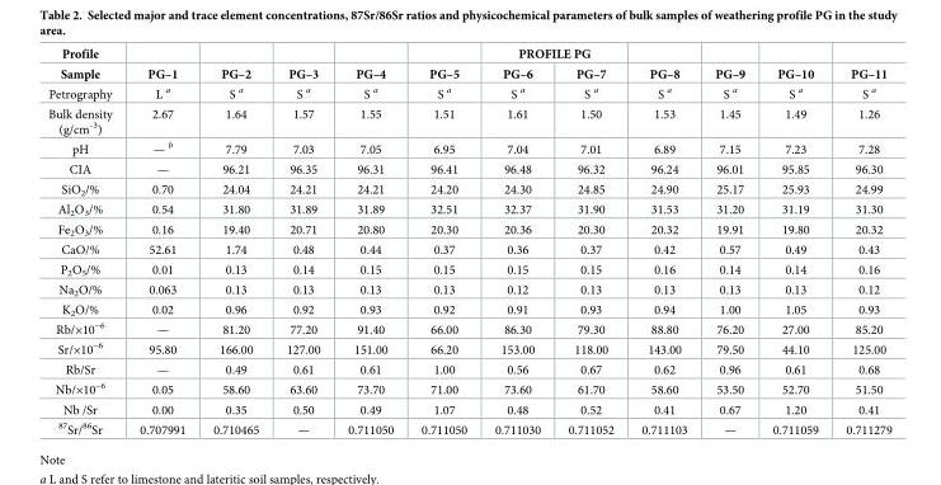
<table><thead><tr><td rowspan="2">Profile Sample</td><td rowspan="2">PG–1</td><td rowspan="2">PG–2</td><td rowspan="2">PG–3</td><td rowspan="2">PG–4</td><td rowspan="2">PG–5</td><td colspan="2">PROFILE PG</td><td rowspan="2">PG–8</td><td rowspan="2">PG–9</td><td rowspan="2">PG–10</td><td rowspan="2">PG–11</td></tr><tr><td>PG–6</td><td>PG–7</td></tr></thead><tbody><tr><td>Petrography</td><td>L <sup>a</sup></td><td>S <sup>a</sup></td><td>S <sup>a</sup></td><td>S <sup>a</sup></td><td>S <sup>a</sup></td><td>S <sup>a</sup></td><td>S <sup>a</sup></td><td>S <sup>a</sup></td><td>S <sup>a</sup></td><td>S <sup>a</sup></td><td>S <sup>a</sup></td></tr><tr><td>Bulk density (g/cm<sup>-3</sup>)</td><td>2.67</td><td>1.64</td><td>1.57</td><td>1.55</td><td>1.51</td><td>1.61</td><td>1.50</td><td>1.53</td><td>1.45</td><td>1.49</td><td>1.26</td></tr><tr><td>pH</td><td>— <sup>b</sup></td><td>7.79</td><td>7.03</td><td>7.05</td><td>6.95</td><td>7.04</td><td>7.01</td><td>6.89</td><td>7.15</td><td>7.23</td><td>7.28</td></tr><tr><td>CIA</td><td>—</td><td>96.21</td><td>96.35</td><td>96.31</td><td>96.41</td><td>96.48</td><td>96.32</td><td>96.24</td><td>96.01</td><td>95.85</td><td>96.30</td></tr><tr><td>SiO<sub>2</sub>/%</td><td>0.70</td><td>24.04</td><td>24.21</td><td>24.21</td><td>24.20</td><td>24.30</td><td>24.85</td><td>24.90</td><td>25.17</td><td>25.93</td><td>24.99</td></tr><tr><td>Al<sub>2</sub>O<sub>3</sub>/%</td><td>0.54</td><td>31.80</td><td>31.89</td><td>31.89</td><td>32.51</td><td>32.37</td><td>31.90</td><td>31.53</td><td>31.20</td><td>31.19</td><td>31.30</td></tr><tr><td>Fe<sub>2</sub>O<sub>3</sub>/%</td><td>0.16</td><td>19.40</td><td>20.71</td><td>20.80</td><td>20.30</td><td>20.36</td><td>20.30</td><td>20.32</td><td>19.91</td><td>19.80</td><td>20.32</td></tr><tr><td>CaO/%</td><td>52.61</td><td>1.74</td><td>0.48</td><td>0.44</td><td>0.37</td><td>0.36</td><td>0.37</td><td>0.42</td><td>0.57</td><td>0.49</td><td>0.43</td></tr><tr><td>P<sub>2</sub>O<sub>5</sub>/%</td><td>0.01</td><td>0.13</td><td>0.14</td><td>0.15</td><td>0.15</td><td>0.15</td><td>0.15</td><td>0.16</td><td>0.14</td><td>0.14</td><td>0.16</td></tr><tr><td>Na<sub>2</sub>O/%</td><td>0.063</td><td>0.13</td><td>0.13</td><td>0.13</td><td>0.13</td><td>0.12</td><td>0.13</td><td>0.13</td><td>0.13</td><td>0.13</td><td>0.12</td></tr><tr><td>K<sub>2</sub>O/%</td><td>0.02</td><td>0.96</td><td>0.92</td><td>0.93</td><td>0.92</td><td>0.91</td><td>0.93</td><td>0.94</td><td>1.00</td><td>1.05</td><td>0.93</td></tr><tr><td>Rb/×10<sup>−6</sup></td><td>—</td><td>81.20</td><td>77.20</td><td>91.40</td><td>66.00</td><td>86.30</td><td>79.30</td><td>88.80</td><td>76.20</td><td>27.00</td><td>85.20</td></tr><tr><td>Sr/×10<sup>−6</sup></td><td>95.80</td><td>166.00</td><td>127.00</td><td>151.00</td><td>66.20</td><td>153.00</td><td>118.00</td><td>143.00</td><td>79.50</td><td>44.10</td><td>125.00</td></tr><tr><td>Rb/Sr</td><td>—</td><td>0.49</td><td>0.61</td><td>0.61</td><td>1.00</td><td>0.56</td><td>0.67</td><td>0.62</td><td>0.96</td><td>0.61</td><td>0.68</td></tr><tr><td>Nb/×10<sup>−6</sup></td><td>0.05</td><td>58.60</td><td>63.60</td><td>73.70</td><td>71.00</td><td>73.60</td><td>61.70</td><td>58.60</td><td>53.50</td><td>52.70</td><td>51.50</td></tr><tr><td>Nb /Sr</td><td>0.00</td><td>0.35</td><td>0.50</td><td>0.49</td><td>1.07</td><td>0.48</td><td>0.52</td><td>0.41</td><td>0.67</td><td>1.20</td><td>0.41</td></tr><tr><td><sup>87</sup>Sr/<sup>86</sup>Sr</td><td>0.707991</td><td>0.710465</td><td>—</td><td>0.711050</td><td>0.711050</td><td>0.711030</td><td>0.711052</td><td>0.711103</td><td>—</td><td>0.711059</td><td>0.711279</td></tr></tbody></table>